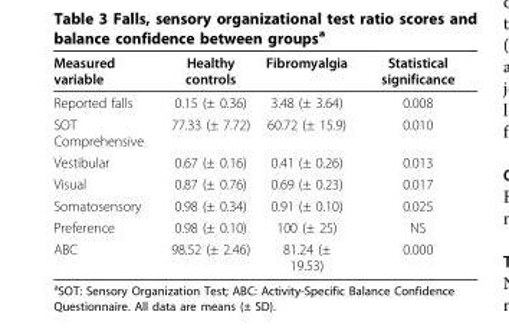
<table><thead><tr><td>Measured variable</td><td>Healthy controls</td><td>Fibromyalgia</td><td>Statistical significance</td></tr></thead><tbody><tr><td>Reported falls</td><td>0.15 (± 0.36)</td><td>3.48 (± 3.64)</td><td>0.008</td></tr><tr><td>SOT Comprehensive</td><td>77.33 (± 7.72)</td><td>60.72 (± 15.9)</td><td>0.010</td></tr><tr><td>Vestibular</td><td>0.67 (± 0.16)</td><td>0.41 (± 0.26)</td><td>0.013</td></tr><tr><td>Visual</td><td>0.87 (± 0.76)</td><td>0.69 (± 0.23)</td><td>0.017</td></tr><tr><td>Somatosensory</td><td>0.98 (± 0.34)</td><td>0.91 (± 0.10)</td><td>0.025</td></tr><tr><td>Preference</td><td>0.98 (± 0.10)</td><td>100 (± 25)</td><td>NS</td></tr><tr><td>ABC</td><td>98.52 (± 2.46)</td><td>81.24 (± 19.53)</td><td>0.000</td></tr></tbody></table>